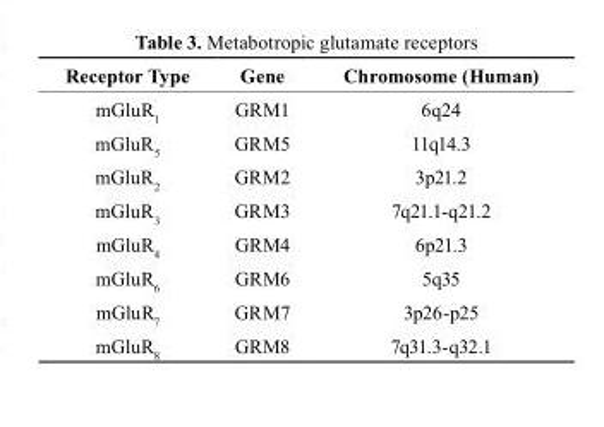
<table><thead><tr><td>receptor type</td><td>Gene</td><td>chromosome (Human)</td></tr></thead><tbody><tr><td>mGluR<sub>1</sub></td><td>GRM1</td><td>6q24</td></tr><tr><td>mGluR<sub>5</sub></td><td>GRM5</td><td>11q14.3</td></tr><tr><td>mGluR<sub>2</sub></td><td>GRM2</td><td>3p21.2</td></tr><tr><td>mGluR<sub>3</sub></td><td>GRM3</td><td>7q21.1-q21.2</td></tr><tr><td>mGluR<sub>4</sub></td><td>GRM4</td><td>6p21.3</td></tr><tr><td>mGluR<sub>6</sub></td><td>GRM6</td><td>5q35</td></tr><tr><td>mGluR<sub>7</sub></td><td>GRM7</td><td>3p26-p25</td></tr><tr><td>mGluR<sub>8</sub></td><td>GRM8</td><td>7q31.3-q32.1</td></tr></tbody></table>